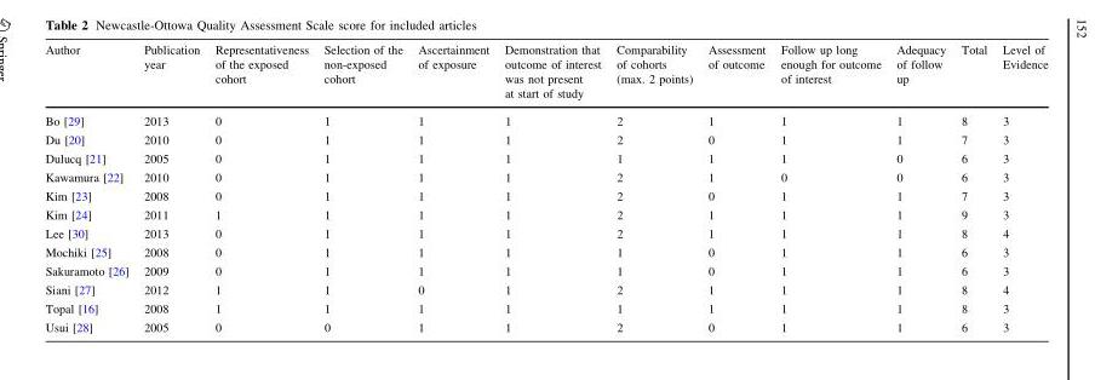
<table><thead><tr><td rowspan="2">Author</td><td rowspan="2">Publication year</td><td rowspan="2">Representativeness of the exposed cohort</td><td rowspan="2">Selection of the non-exposed cohort</td><td rowspan="2">Ascertainment of exposure</td><td rowspan="2">Demonstration that outcome of interest was not present at start of study</td><td rowspan="2">Comparability of cohorts (max. 2 points)</td><td rowspan="2">Assessment of outcome</td><td rowspan="2">Follow up long enough for outcome of interest</td><td rowspan="2">Adequacy of follow up</td><td rowspan="2">Total</td><td rowspan="2">Level of Evidence</td></tr><tr></tr></thead><tbody><tr><td>Bo [29]</td><td>2013</td><td>0</td><td>1</td><td>1</td><td>1</td><td>2</td><td>1</td><td>1</td><td>1</td><td>8</td><td>3</td></tr><tr><td>Du [20]</td><td>2010</td><td>0</td><td>1</td><td>1</td><td>1</td><td>2</td><td>0</td><td>1</td><td>1</td><td>7</td><td>3</td></tr><tr><td>Dulucq [21]</td><td>2005</td><td>0</td><td>1</td><td>1</td><td>1</td><td>1</td><td>1</td><td>1</td><td>0</td><td>6</td><td>3</td></tr><tr><td>Kawamura [22]</td><td>2010</td><td>0</td><td>1</td><td>1</td><td>1</td><td>2</td><td>1</td><td>0</td><td>0</td><td>6</td><td>3</td></tr><tr><td>Kim [23]</td><td>2008</td><td>0</td><td>1</td><td>1</td><td>1</td><td>2</td><td>0</td><td>1</td><td>1</td><td>7</td><td>3</td></tr><tr><td>Kim [24]</td><td>2011</td><td>1</td><td>1</td><td>1</td><td>1</td><td>2</td><td>1</td><td>1</td><td>1</td><td>9</td><td>3</td></tr><tr><td>Lee [30]</td><td>2013</td><td>0</td><td>1</td><td>1</td><td>1</td><td>2</td><td>1</td><td>1</td><td>1</td><td>8</td><td>4</td></tr><tr><td>Mochiki [25]</td><td>2008</td><td>0</td><td>1</td><td>1</td><td>1</td><td>1</td><td>0</td><td>1</td><td>1</td><td>6</td><td>3</td></tr><tr><td>Sakuramoto [26]</td><td>2009</td><td>0</td><td>1</td><td>1</td><td>1</td><td>1</td><td>0</td><td>1</td><td>1</td><td>6</td><td>3</td></tr><tr><td>Siani [27]</td><td>2012</td><td>1</td><td>1</td><td>0</td><td>1</td><td>2</td><td>1</td><td>1</td><td>1</td><td>8</td><td>4</td></tr><tr><td>Topal [16]</td><td>2008</td><td>1</td><td>1</td><td>1</td><td>1</td><td>1</td><td>1</td><td>1</td><td>1</td><td>8</td><td>3</td></tr><tr><td>Usui [28]</td><td>2005</td><td>0</td><td>0</td><td>1</td><td>1</td><td>2</td><td>0</td><td>1</td><td>1</td><td>6</td><td>3</td></tr></tbody></table>